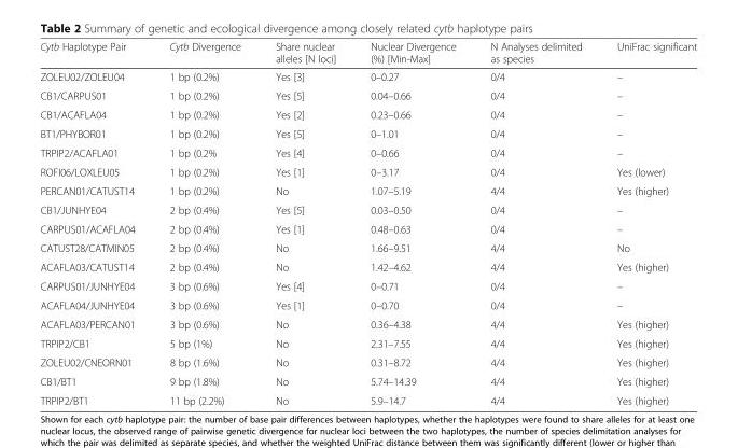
<table><thead><tr><td>Cytb Haplotype Pair</td><td>Cytb Divergence</td><td>Share nuclear alleles [N loci]</td><td>Nuclear Divergence (%) [Min-Max]</td><td>N Analyses delimited as species</td><td>UniFrac significant</td></tr></thead><tbody><tr><td>ZOLEU02/ZOLEU04</td><td>1 bp (0.2%)</td><td>Yes [3]</td><td>0–0.27</td><td>0/4</td><td>–</td></tr><tr><td>CB1/CARPUS01</td><td>1 bp (0.2%)</td><td>Yes [5]</td><td>0.04–0.66</td><td>0/4</td><td>–</td></tr><tr><td>CB1/ACAFLA04</td><td>1 bp (0.2%)</td><td>Yes [2]</td><td>0.23–0.66</td><td>0/4</td><td>–</td></tr><tr><td>BT1/PHYBOR01</td><td>1 bp (0.2%)</td><td>Yes [5]</td><td>0–1.01</td><td>0/4</td><td>–</td></tr><tr><td>TRPIP2/ACAFLA01</td><td>1 bp (0.2%</td><td>Yes [4]</td><td>0–0.66</td><td>0/4</td><td>–</td></tr><tr><td>ROFI06/LOXLEU05</td><td>1 bp (0.2%)</td><td>Yes [1]</td><td>0–3.17</td><td>0/4</td><td>Yes (lower)</td></tr><tr><td>PERCAN01/CATUST14</td><td>1 bp (0.2%)</td><td>No</td><td>1.07–5.19</td><td>4/4</td><td>Yes (higher)</td></tr><tr><td>CB1/JUNHYE04</td><td>2 bp (0.4%)</td><td>Yes [5]</td><td>0.03–0.50</td><td>0/4</td><td>–</td></tr><tr><td>CARPUS01/ACAFLA04</td><td>2 bp (0.4%)</td><td>Yes [1]</td><td>0.48–0.63</td><td>0/4</td><td>–</td></tr><tr><td>CATUST28/CATMIN05</td><td>2 bp (0.4%)</td><td>No</td><td>1.66–9.51</td><td>4/4</td><td>No</td></tr><tr><td>ACAFLA03/CATUST14</td><td>2 bp (0.4%)</td><td>No</td><td>1.42–4.62</td><td>4/4</td><td>Yes (higher)</td></tr><tr><td>CARPUS01/JUNHYE04</td><td>3 bp (0.6%)</td><td>Yes [4]</td><td>0–0.71</td><td>0/4</td><td>–</td></tr><tr><td>ACAFLA04/JUNHYE04</td><td>3 bp (0.6%)</td><td>Yes [1]</td><td>0–0.70</td><td>0/4</td><td>–</td></tr><tr><td>ACAFLA03/PERCAN01</td><td>3 bp (0.6%)</td><td>No</td><td>0.36–4.38</td><td>4/4</td><td>Yes (higher)</td></tr><tr><td>TRPIP2/CB1</td><td>5 bp (1%)</td><td>No</td><td>2.31–7.55</td><td>4/4</td><td>Yes (higher)</td></tr><tr><td>ZOLEU02/CNEORN01</td><td>8 bp (1.6%)</td><td>No</td><td>0.31–8.72</td><td>4/4</td><td>Yes (higher)</td></tr><tr><td>CB1/BT1</td><td>9 bp (1.8%)</td><td>No</td><td>5.74–14.39</td><td>4/4</td><td>Yes (higher)</td></tr><tr><td>TRPIP2/BT1</td><td>11 bp (2.2%)</td><td>No</td><td>5.9–14.7</td><td>4/4</td><td>Yes (higher)</td></tr></tbody></table>